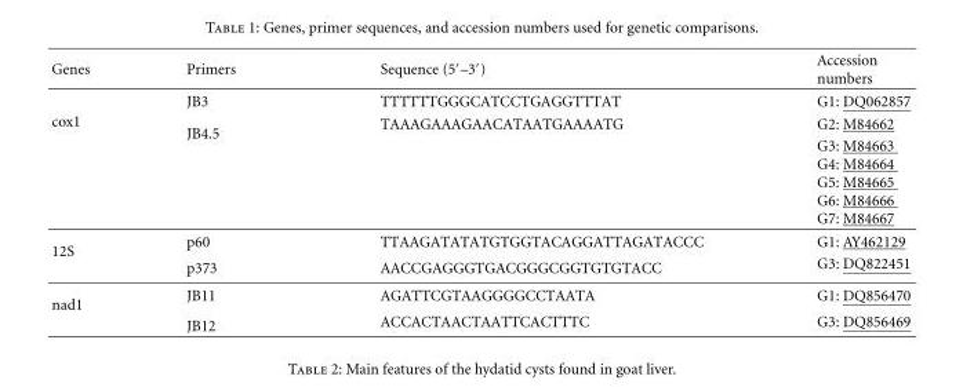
<table><thead><tr><td>Genes</td><td>Primers</td><td>Sequence (5′–3′)</td><td>Accession numbers</td></tr></thead><tbody><tr><td rowspan="3">cox1</td><td>JB3</td><td>TTTTTTGGGCATCCTGAGGTTTAT</td><td>G1: DQ062857</td></tr><tr><td rowspan="2">JB4.5</td><td>TAAAGAAAGAACATAATGAAAATG</td><td>G2: M84662</td></tr><tr><td></td><td>G3: M84663 G4: M84664 G5: M84665 G6: M84666 G7: M84667</td></tr><tr><td rowspan="2">12S</td><td>p60</td><td>TTAAGATATATGTGGTACAGGATTAGATACCC</td><td>G1: AY462129</td></tr><tr><td>p373</td><td>AACCGAGGGTGACGGGCGGTGTGTACC</td><td>G3: DQ822451</td></tr><tr><td rowspan="2">nad1</td><td>JB11</td><td>AGATTCGTAAGGGGCCTAATA</td><td>G1: DQ856470</td></tr><tr><td>JB12</td><td>ACCACTAACTAATTCACTTTC</td><td>G3: DQ856469</td></tr></tbody></table>